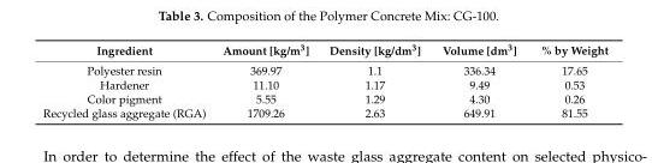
<table><thead><tr><td>Ingredient</td><td>Amount [kg/m<sup>3</sup>]</td><td>Density [kg/dm<sup>3</sup>]</td><td>Volume [dm<sup>3</sup>]</td><td>% by Weight</td></tr></thead><tbody><tr><td>Polyester resin</td><td>369.97</td><td>1.1</td><td>336.34</td><td>17.65</td></tr><tr><td>Hardener</td><td>11.10</td><td>1.17</td><td>9.49</td><td>0.53</td></tr><tr><td>Color pigment</td><td>5.55</td><td>1.29</td><td>4.30</td><td>0.26</td></tr><tr><td>Recycled glass aggregate (RGA)</td><td>1709.26</td><td>2.63</td><td>649.91</td><td>81.55</td></tr></tbody></table>